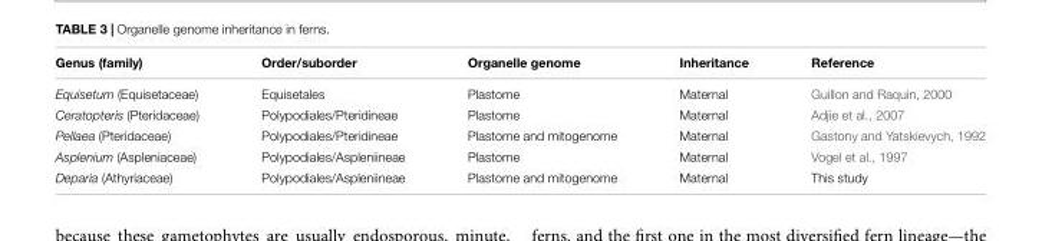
<table><thead><tr><td>Genus (family)</td><td>Order/suborder</td><td>Organelle genome</td><td>Inheritance</td><td>Reference</td></tr></thead><tbody><tr><td>Equisetum (Equisetaceae)</td><td>Equisetales</td><td>Plastome</td><td>Maternal</td><td>Guillon and Raquin, 2000</td></tr><tr><td>Ceratopteris (Pteridaceae)</td><td>Polypodiales/Pteridineae</td><td>Plastome</td><td>Maternal</td><td>Adjie et al., 2007</td></tr><tr><td>Pellaea (Pteridaceae)</td><td>Polypodiales/Pteridineae</td><td>Plastome and mitogenome</td><td>Maternal</td><td>Gastony and Yatskievych, 1992</td></tr><tr><td>Asplenium (Aspleniaceae)</td><td>Polypodiales/Aspleniineae</td><td>Plastome</td><td>Maternal</td><td>Vogel et al., 1997</td></tr><tr><td>Deparia (Athyriaceae)</td><td>Polypodiales/Aspleniineae</td><td>Plastome and mitogenome</td><td>Maternal</td><td>This study</td></tr></tbody></table>